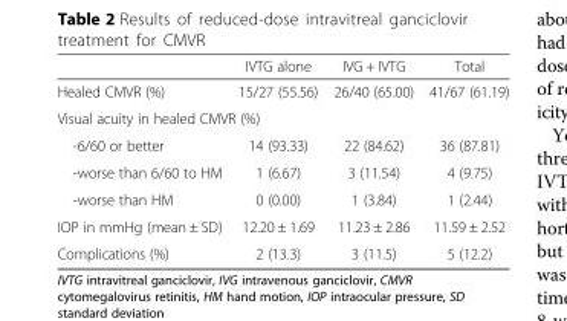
<table><thead><tr><td></td><td>IVTG alone</td><td>IVG + IVTG</td><td>Total</td></tr></thead><tbody><tr><td>Healed CMVR (%)</td><td>15/27 (55.56)</td><td>26/40 (65.00)</td><td>41/67 (61.19)</td></tr><tr><td colspan="4">Visual acuity in healed CMVR (%)</td></tr><tr><td>-6/60 or better</td><td>14 (93.33)</td><td>22 (84.62)</td><td>36 (87.81)</td></tr><tr><td>-worse than 6/60 to HM</td><td>1 (6.67)</td><td>3 (11.54)</td><td>4 (9.75)</td></tr><tr><td>-worse than HM</td><td>0 (0.00)</td><td>1 (3.84)</td><td>1 (2.44)</td></tr><tr><td>IOP in mmHg (mean ± SD)</td><td>12.20 ± 1.69</td><td>11.23 ± 2.86</td><td>11.59 ± 2.52</td></tr><tr><td>Complications (%)</td><td>2 (13.3)</td><td>3 (11.5)</td><td>5 (12.2)</td></tr></tbody></table>